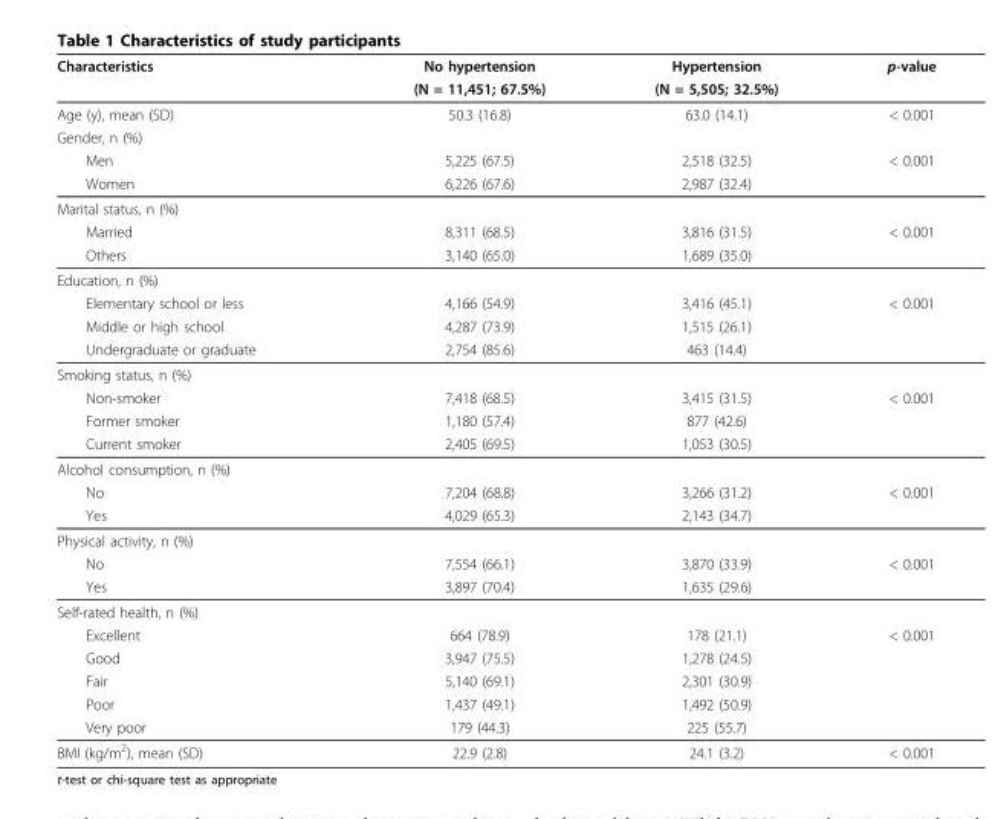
<table><thead><tr><td rowspan="2">Characteristics</td><td rowspan="2">No hypertension (N = 11,451; 67.5%)</td><td rowspan="2">Hypertension (N = 5,505; 32.5%)</td><td rowspan="2">p-value</td></tr><tr></tr></thead><tbody><tr><td>Age (y), mean (SD)</td><td>50.3 (16.8)</td><td>63.0 (14.1)</td><td>&lt; 0.001</td></tr><tr><td colspan="4">Gender, n (%)</td></tr><tr><td>Men</td><td>5,225 (67.5)</td><td>2,518 (32.5)</td><td>&lt; 0.001</td></tr><tr><td>Women</td><td>6,226 (67.6)</td><td>2,987 (32.4)</td><td></td></tr><tr><td colspan="4">Marital status, n (%)</td></tr><tr><td>Married</td><td>8,311 (68.5)</td><td>3,816 (31.5)</td><td>&lt; 0.001</td></tr><tr><td>Others</td><td>3,140 (65.0)</td><td>1,689 (35.0)</td><td></td></tr><tr><td colspan="4">Education, n (%)</td></tr><tr><td>Elementary school or less</td><td>4,166 (54.9)</td><td>3,416 (45.1)</td><td>&lt; 0.001</td></tr><tr><td>Middle or high school</td><td>4,287 (73.9)</td><td>1,515 (26.1)</td><td></td></tr><tr><td>Undergraduate or graduate</td><td>2,754 (85.6)</td><td>463 (14.4)</td><td></td></tr><tr><td colspan="4">Smoking status, n (%)</td></tr><tr><td>Non-smoker</td><td>7,418 (68.5)</td><td>3,415 (31.5)</td><td>&lt; 0.001</td></tr><tr><td>Former smoker</td><td>1,180 (57.4)</td><td>877 (42.6)</td><td></td></tr><tr><td>Current smoker</td><td>2,405 (69.5)</td><td>1,053 (30.5)</td><td></td></tr><tr><td colspan="4">Alcohol consumption, n (%)</td></tr><tr><td>No</td><td>7,204 (68.8)</td><td>3,266 (31.2)</td><td>&lt; 0.001</td></tr><tr><td>Yes</td><td>4,029 (65.3)</td><td>2,143 (34.7)</td><td></td></tr><tr><td colspan="4">Physical activity, n (%)</td></tr><tr><td>No</td><td>7,554 (66.1)</td><td>3,870 (33.9)</td><td>&lt; 0.001</td></tr><tr><td>Yes</td><td>3,897 (70.4)</td><td>1,635 (29.6)</td><td></td></tr><tr><td colspan="4">Self-rated health, n (%)</td></tr><tr><td>Excellent</td><td>664 (78.9)</td><td>178 (21.1)</td><td>&lt; 0.001</td></tr><tr><td>Good</td><td>3,947 (75.5)</td><td>1,278 (24.5)</td><td></td></tr><tr><td>Fair</td><td>5,140 (69.1)</td><td>2,301 (30.9)</td><td></td></tr><tr><td>Poor</td><td>1,437 (49.1)</td><td>1,492 (50.9)</td><td></td></tr><tr><td>Very poor</td><td>179 (44.3)</td><td>225 (55.7)</td><td></td></tr><tr><td>BMI (kg/m<sup>2</sup>), mean (SD)</td><td>22.9 (2.8)</td><td>24.1 (3.2)</td><td>&lt; 0.001</td></tr></tbody></table>